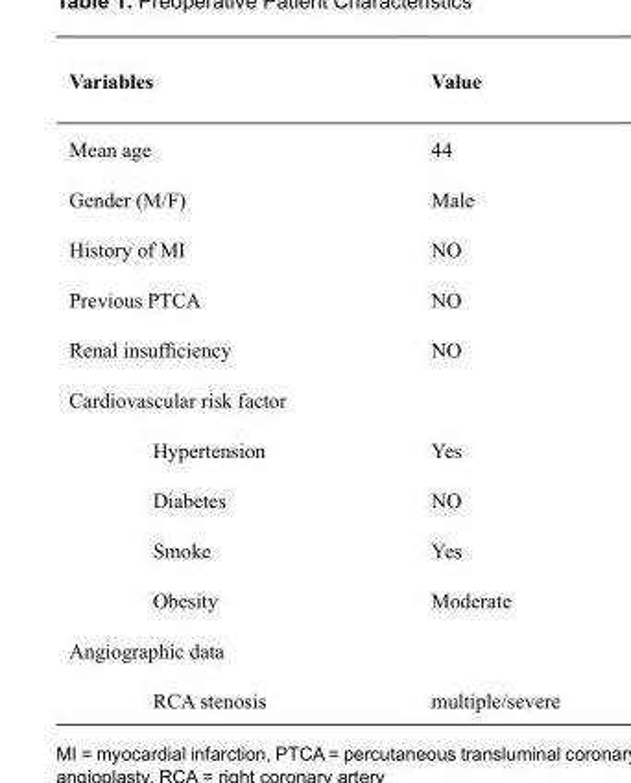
<table><thead><tr><td>Variables</td><td>Value</td></tr></thead><tbody><tr><td>Mean age</td><td>44</td></tr><tr><td>Gender (M/F)</td><td>Male</td></tr><tr><td>History of MI</td><td>NO</td></tr><tr><td>Previous PTCA</td><td>NO</td></tr><tr><td>Renal insufficiency</td><td>NO</td></tr><tr><td colspan="2">Cardiovascular risk factor</td></tr><tr><td>Hypertension</td><td>Yes</td></tr><tr><td>Diabetes</td><td>NO</td></tr><tr><td>Smoke</td><td>Yes</td></tr><tr><td>Obesity</td><td>Moderate</td></tr><tr><td colspan="2">Angiographic data</td></tr><tr><td>RCA stenosis</td><td>multiple/severe</td></tr></tbody></table>